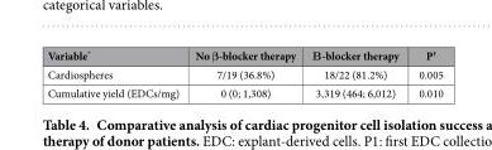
<table><thead><tr><td>Variable*</td><td>No β-blocker therapy</td><td>Β-blocker therapy</td><td>P†</td></tr></thead><tbody><tr><td>Cardiospheres</td><td>7/19 (36.8%)</td><td>18/22 (81.2%)</td><td>0.005</td></tr><tr><td>Cumulative yield (EDCs/mg)</td><td>0 (0; 1,308)</td><td>3,319 (464; 6,012)</td><td>0.010</td></tr></tbody></table>